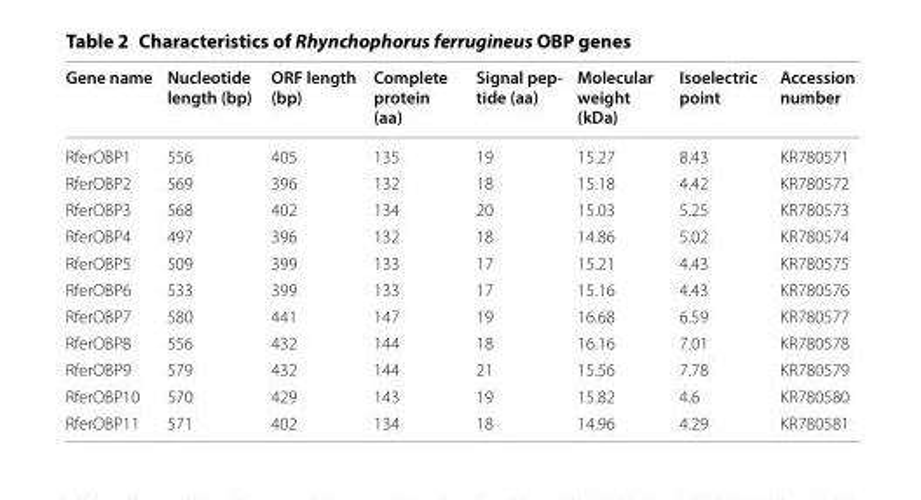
<table><thead><tr><td>Gene name</td><td>Nucleotide length (bp)</td><td>ORF length (bp)</td><td>Complete protein (aa)</td><td>Signal pep- tide (aa)</td><td>Molecular weight (kDa)</td><td>Isoelectric point</td><td>Accession number</td></tr></thead><tbody><tr><td>RferOBP1</td><td>556</td><td>405</td><td>135</td><td>19</td><td>15.27</td><td>8.43</td><td>KR780571</td></tr><tr><td>RferOBP2</td><td>569</td><td>396</td><td>132</td><td>18</td><td>15.18</td><td>4.42</td><td>KR780572</td></tr><tr><td>RferOBP3</td><td>568</td><td>402</td><td>134</td><td>20</td><td>15.03</td><td>5.25</td><td>KR780573</td></tr><tr><td>RferOBP4</td><td>497</td><td>396</td><td>132</td><td>18</td><td>14.86</td><td>5.02</td><td>KR780574</td></tr><tr><td>RferOBP5</td><td>509</td><td>399</td><td>133</td><td>17</td><td>15.21</td><td>4.43</td><td>KR780575</td></tr><tr><td>RferOBP6</td><td>533</td><td>399</td><td>133</td><td>17</td><td>15.16</td><td>4.43</td><td>KR780576</td></tr><tr><td>RferOBP7</td><td>580</td><td>441</td><td>147</td><td>19</td><td>16.68</td><td>6.59</td><td>KR780577</td></tr><tr><td>RferOBP8</td><td>556</td><td>432</td><td>144</td><td>18</td><td>16.16</td><td>7.01</td><td>KR780578</td></tr><tr><td>RferOBP9</td><td>579</td><td>432</td><td>144</td><td>21</td><td>15.56</td><td>7.78</td><td>KR780579</td></tr><tr><td>RferOBP10</td><td>570</td><td>429</td><td>143</td><td>19</td><td>15.82</td><td>4.6</td><td>KR780580</td></tr><tr><td>RferOBP11</td><td>571</td><td>402</td><td>134</td><td>18</td><td>14.96</td><td>4.29</td><td>KR780581</td></tr></tbody></table>